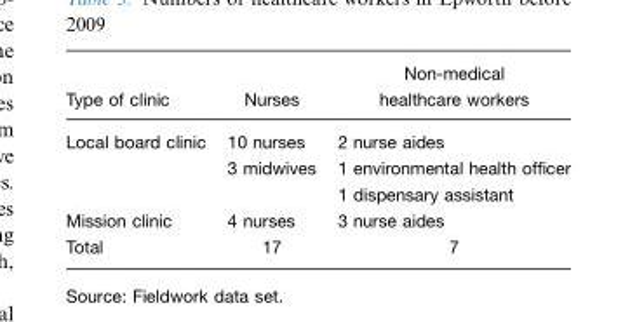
<table><thead><tr><td>Type of clinic</td><td>Nurses</td><td>Non-medical healthcare workers</td></tr></thead><tbody><tr><td>Local board clinic</td><td>10 nurses 3 midwives</td><td>2 nurse aides 1 environmental health officer 1 dispensary assistant</td></tr><tr><td>Mission clinic</td><td>4 nurses</td><td>3 nurse aides</td></tr><tr><td>Total</td><td>17</td><td>7</td></tr></tbody></table>